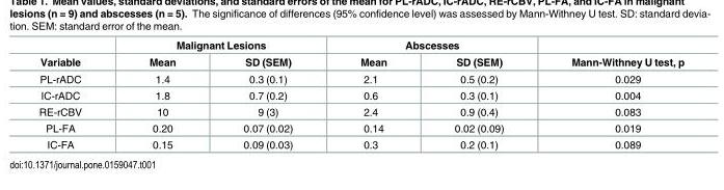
<table><thead><tr><td rowspan="2">Variable</td><td colspan="2">Malignant Lesions</td><td colspan="2">Abscesses</td><td rowspan="2">Mann-Withney U test, p</td></tr><tr><td>Mean</td><td>SD (SEM)</td><td>Mean</td><td>SD (SEM)</td></tr></thead><tbody><tr><td>PL-rADC</td><td>1.4</td><td>0.3 (0.1)</td><td>2.1</td><td>0.5 (0.2)</td><td>0.029</td></tr><tr><td>IC-rADC</td><td>1.8</td><td>0.7 (0.2)</td><td>0.6</td><td>0.3 (0.1)</td><td>0.004</td></tr><tr><td>RE-rCBV</td><td>10</td><td>9 (3)</td><td>2.4</td><td>0.9 (0.4)</td><td>0.083</td></tr><tr><td>PL-FA</td><td>0.20</td><td>0.07 (0.02)</td><td>0.14</td><td>0.02 (0.09)</td><td>0.019</td></tr><tr><td>IC-FA</td><td>0.15</td><td>0.09 (0.03)</td><td>0.3</td><td>0.2 (0.1)</td><td>0.089</td></tr></tbody></table>